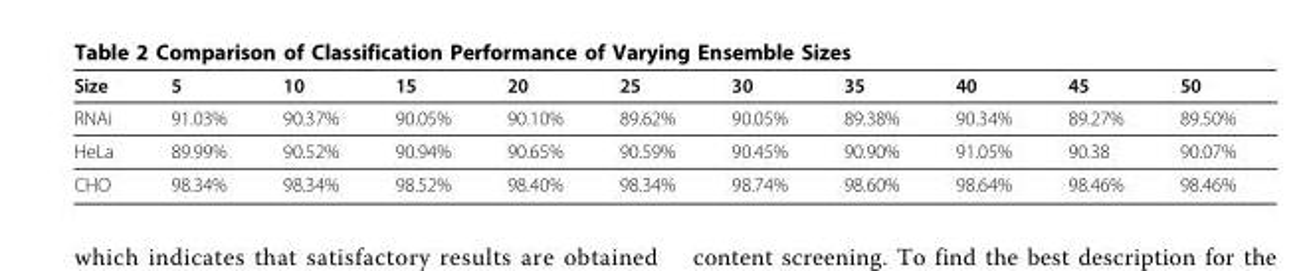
<table><thead><tr><td>Size</td><td>5</td><td>10</td><td>15</td><td>20</td><td>25</td><td>30</td><td>35</td><td>40</td><td>45</td><td>50</td></tr></thead><tbody><tr><td>RNAi</td><td>91.03%</td><td>90.37%</td><td>90.05%</td><td>90.10%</td><td>89.62%</td><td>90.05%</td><td>89.38%</td><td>90.34%</td><td>89.27%</td><td>89.50%</td></tr><tr><td>HeLa</td><td>89.99%</td><td>90.52%</td><td>90.94%</td><td>90.65%</td><td>90.59%</td><td>90.45%</td><td>90.90%</td><td>91.05%</td><td>90.38</td><td>90.07%</td></tr><tr><td>CHO</td><td>98.34%</td><td>98.34%</td><td>98.52%</td><td>98.40%</td><td>98.34%</td><td>98.74%</td><td>98.60%</td><td>98.64%</td><td>98.46%</td><td>98.46%</td></tr></tbody></table>